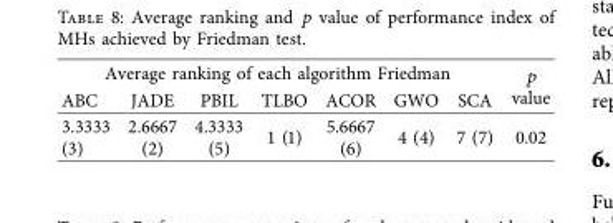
<table><thead><tr><td colspan="7">Average ranking of each algorithm Friedman</td><td rowspan="2">p value</td></tr><tr><td>ABC</td><td>JADE</td><td>PBIL</td><td>TLBO</td><td>ACOR</td><td>GWO</td><td>SCA</td></tr></thead><tbody><tr><td>3.3333 (3)</td><td>2.6667 (2)</td><td>4.3333 (5)</td><td>1 (1)</td><td>5.6667 (6)</td><td>4 (4)</td><td>7 (7)</td><td>0.02</td></tr></tbody></table>